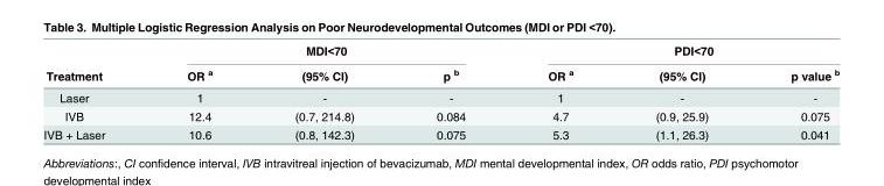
<table><thead><tr><td rowspan="2">Treatment</td><td colspan="3">MDI&lt;70</td><td colspan="3">PDI&lt;70</td></tr><tr><td>OR <sup>a</sup></td><td>(95% CI)</td><td>p <sup>b</sup></td><td>OR <sup>a</sup></td><td>(95% CI)</td><td>p value <sup>b</sup></td></tr></thead><tbody><tr><td>Laser</td><td>1</td><td>-</td><td>-</td><td>1</td><td>-</td><td>-</td></tr><tr><td>IVB</td><td>12.4</td><td>(0.7, 214.8)</td><td>0.084</td><td>4.7</td><td>(0.9, 25.9)</td><td>0.075</td></tr><tr><td>IVB + Laser</td><td>10.6</td><td>(0.8, 142.3)</td><td>0.075</td><td>5.3</td><td>(1.1, 26.3)</td><td>0.041</td></tr></tbody></table>